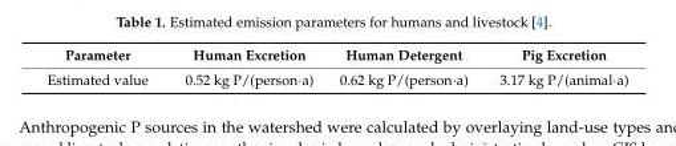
<table><thead><tr><td>Parameter</td><td>Human Excretion</td><td>Human Detergent</td><td>Pig Excretion</td></tr></thead><tbody><tr><td>Estimated value</td><td>0.52 kg P/(person·a)</td><td>0.62 kg P/(person·a)</td><td>3.17 kg P/(animal·a)</td></tr></tbody></table>